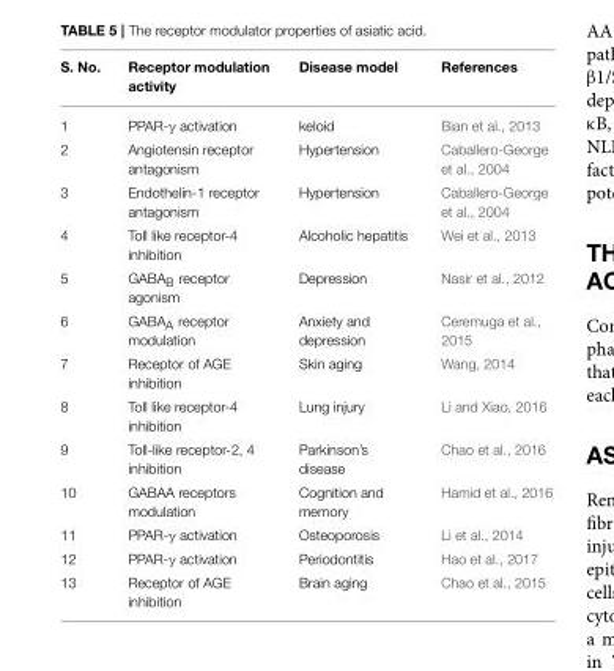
<table><thead><tr><td>S. No.</td><td>Receptor modulation activity</td><td>Disease model</td><td>References</td></tr></thead><tbody><tr><td>1</td><td>PPAR-γ activation</td><td>keloid</td><td>Bian et al., 2013</td></tr><tr><td>2</td><td>Angiotensin receptor antagonism</td><td>Hypertension</td><td>Caballero-George et al., 2004</td></tr><tr><td>3</td><td>Endothelin-1 receptor antagonism</td><td>Hypertension</td><td>Caballero-George et al., 2004</td></tr><tr><td>4</td><td>Toll like receptor-4 inhibition</td><td>Alcoholic hepatitis</td><td>Wei et al., 2013</td></tr><tr><td>5</td><td>GABA<sub>B</sub> receptor agonism</td><td>Depression</td><td>Nasir et al., 2012</td></tr><tr><td>6</td><td>GABA<sub>A</sub> receptor modulation</td><td>Anxiety and depression</td><td>Ceremuga et al., 2015</td></tr><tr><td>7</td><td>Receptor of AGE inhibition</td><td>Skin aging</td><td>Wang, 2014</td></tr><tr><td>8</td><td>Toll like receptor-4 inhibition</td><td>Lung injury</td><td>Li and Xiao, 2016</td></tr><tr><td>9</td><td>Toll-like receptor-2, 4 inhibition</td><td>Parkinson’s disease</td><td>Chao et al., 2016</td></tr><tr><td>10</td><td>GABAA receptors modulation</td><td>Cognition and memory</td><td>Hamid et al., 2016</td></tr><tr><td>11</td><td>PPAR-γ activation</td><td>Osteoporosis</td><td>Li et al., 2014</td></tr><tr><td>12</td><td>PPAR-γ activation</td><td>Periodontitis</td><td>Hao et al., 2017</td></tr><tr><td>13</td><td>Receptor of AGE inhibition</td><td>Brain aging</td><td>Chao et al., 2015</td></tr></tbody></table>